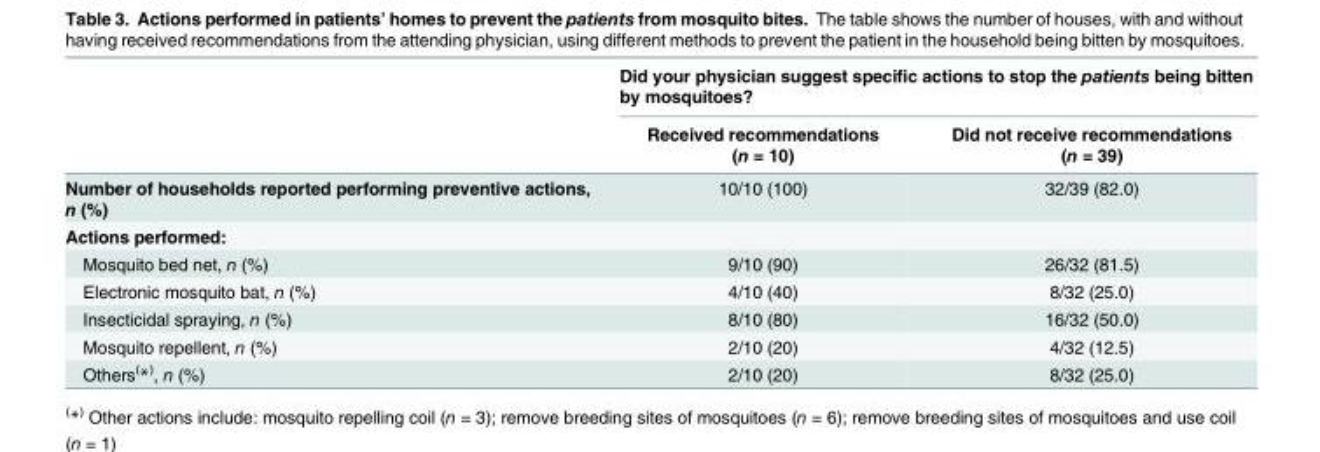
<table><thead><tr><td rowspan="2"></td><td colspan="2">Did your physician suggest specific actions to stop the patients being bitten by mosquitoes?</td></tr><tr><td>Received recommendations (n = 10)</td><td>Did not receive recommendations (n = 39)</td></tr></thead><tbody><tr><td>Number of households reported performing preventive actions, n (%)</td><td>10/10 (100)</td><td>32/39 (82.0)</td></tr><tr><td colspan="3">Actions performed:</td></tr><tr><td>Mosquito bed net, n (%)</td><td>9/10 (90)</td><td>26/32 (81.5)</td></tr><tr><td>Electronic mosquito bat, n (%)</td><td>4/10 (40)</td><td>8/32 (25.0)</td></tr><tr><td>Insecticidal spraying, n (%)</td><td>8/10 (80)</td><td>16/32 (50.0)</td></tr><tr><td>Mosquito repellent, n (%)</td><td>2/10 (20)</td><td>4/32 (12.5)</td></tr><tr><td>Others<sup>(</sup>*<sup>)</sup>, n (%)</td><td>2/10 (20)</td><td>8/32 (25.0)</td></tr></tbody></table>